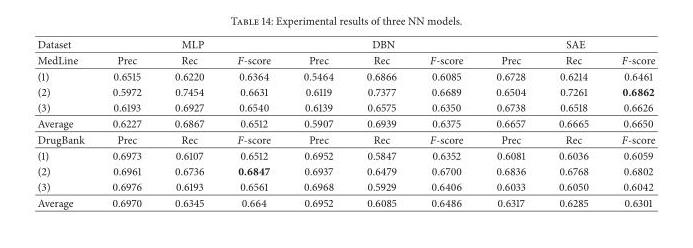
<table><thead><tr><td rowspan="2">Dataset MedLine</td><td colspan="3">MLP</td><td colspan="3">DBN</td><td colspan="3">SAE</td></tr><tr><td>Prec</td><td>Rec</td><td>F-score</td><td>Prec</td><td>Rec</td><td>F-score</td><td>Prec</td><td>Rec</td><td>F-score</td></tr></thead><tbody><tr><td>(1)</td><td>0.6515</td><td>0.6220</td><td>0.6364</td><td>0.5464</td><td>0.6866</td><td>0.6085</td><td>0.6728</td><td>0.6214</td><td>0.6461</td></tr><tr><td>(2)</td><td>0.5972</td><td>0.7454</td><td>0.6631</td><td>0.6119</td><td>0.7377</td><td>0.6689</td><td>0.6504</td><td>0.7261</td><td>0.6862</td></tr><tr><td>(3)</td><td>0.6193</td><td>0.6927</td><td>0.6540</td><td>0.6139</td><td>0.6575</td><td>0.6350</td><td>0.6738</td><td>0.6518</td><td>0.6626</td></tr><tr><td>Average</td><td>0.6227</td><td>0.6867</td><td>0.6512</td><td>0.5907</td><td>0.6939</td><td>0.6375</td><td>0.6657</td><td>0.6665</td><td>0.6650</td></tr><tr><td>DrugBank</td><td>Prec</td><td>Rec</td><td>F-score</td><td>Prec</td><td>Rec</td><td>F-score</td><td>Prec</td><td>Rec</td><td>F-score</td></tr><tr><td>(1)</td><td>0.6973</td><td>0.6107</td><td>0.6512</td><td>0.6952</td><td>0.5847</td><td>0.6352</td><td>0.6081</td><td>0.6036</td><td>0.6059</td></tr><tr><td>(2)</td><td>0.6961</td><td>0.6736</td><td>0.6847</td><td>0.6937</td><td>0.6479</td><td>0.6700</td><td>0.6836</td><td>0.6768</td><td>0.6802</td></tr><tr><td>(3)</td><td>0.6976</td><td>0.6193</td><td>0.6561</td><td>0.6968</td><td>0.5929</td><td>0.6406</td><td>0.6033</td><td>0.6050</td><td>0.6042</td></tr><tr><td>Average</td><td>0.6970</td><td>0.6345</td><td>0.664</td><td>0.6952</td><td>0.6085</td><td>0.6486</td><td>0.6317</td><td>0.6285</td><td>0.6301</td></tr></tbody></table>